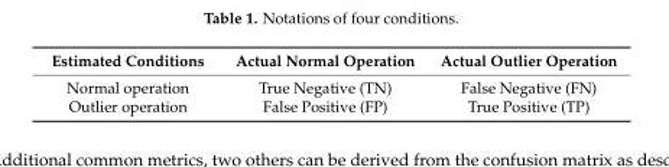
<table><thead><tr><td>Estimated Conditions</td><td>Actual Normal Operation</td><td>Actual Outlier Operation</td></tr></thead><tbody><tr><td>Normal operation</td><td>True Negative (TN)</td><td>False Negative (FN)</td></tr><tr><td>Outlier operation</td><td>False Positive (FP)</td><td>True Positive (TP)</td></tr></tbody></table>